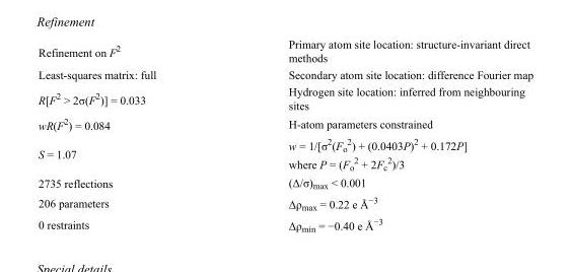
<table><tbody><tr><td>Refinement on F<sup>2</sup></td><td>Primary atom site location: structure-invariant direct methods</td></tr><tr><td>Least-squares matrix: full</td><td>Secondary atom site location: difference Fourier map</td></tr><tr><td>R[F<sup>2</sup> &gt; 2σ(F<sup>2</sup>)] = 0.033</td><td>Hydrogen site location: inferred from neighbouring sites</td></tr><tr><td>wR(F<sup>2</sup>) = 0.084</td><td>H-atom parameters constrained</td></tr><tr><td>S = 1.07</td><td>w = 1/[σ<sup>2</sup>(F<sub>o</sub> <sup>2</sup>) + (0.0403P)<sup>2</sup> + 0.172P] where P = (F<sub>o</sub> <sup>2</sup> + 2F<sub>c</sub> <sup>2</sup>)/3</td></tr><tr><td>2735 reflections</td><td>(Δ/σ)<sub>max</sub> &lt; 0.001</td></tr><tr><td>206 parameters</td><td>Δρ<sub>max</sub> = 0.22 e Å<sup>−3</sup></td></tr><tr><td>0 restraints</td><td>Δρ<sub>min</sub> = −0.40 e Å<sup>−3</sup></td></tr></tbody></table>